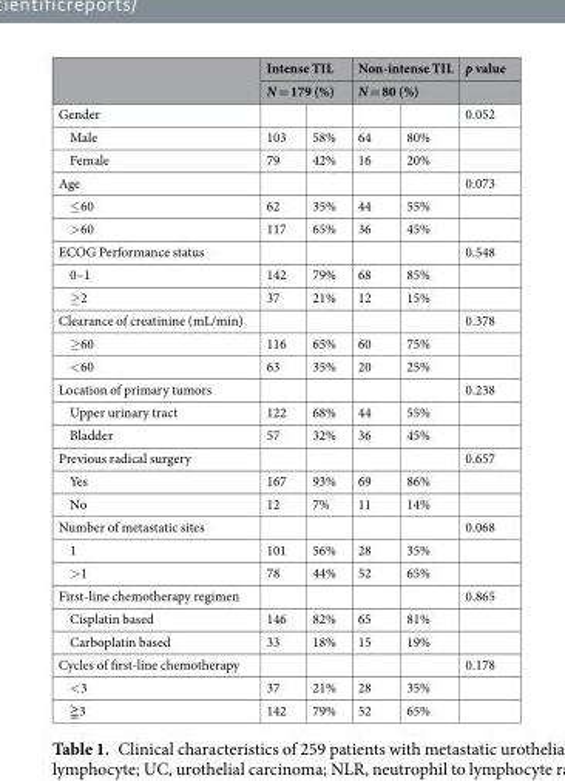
<table><thead><tr><td rowspan="3">Gender</td><td rowspan="2" colspan="2">Intense TIL N = 179 (%)</td><td rowspan="2" colspan="2">Non-intense TIL N = 80 (%)</td><td rowspan="3">p value 0.052</td></tr><tr></tr><tr><td></td><td></td><td></td><td></td></tr></thead><tbody><tr><td>Male</td><td>103</td><td>58%</td><td>64</td><td>80%</td><td></td></tr><tr><td>Female</td><td>79</td><td>42%</td><td>16</td><td>20%</td><td></td></tr><tr><td>Age</td><td></td><td></td><td></td><td></td><td>0.073</td></tr><tr><td>≤60</td><td>62</td><td>35%</td><td>44</td><td>55%</td><td></td></tr><tr><td>&gt;60</td><td>117</td><td>65%</td><td>36</td><td>45%</td><td></td></tr><tr><td>ECOG Performance status</td><td></td><td></td><td></td><td></td><td>0.548</td></tr><tr><td>0–1</td><td>142</td><td>79%</td><td>68</td><td>85%</td><td></td></tr><tr><td>≥2</td><td>37</td><td>21%</td><td>12</td><td>15%</td><td></td></tr><tr><td>Clearance of creatinine (mL/min)</td><td></td><td></td><td></td><td></td><td>0.378</td></tr><tr><td>≥60</td><td>116</td><td>65%</td><td>60</td><td>75%</td><td></td></tr><tr><td>&lt;60</td><td>63</td><td>35%</td><td>20</td><td>25%</td><td></td></tr><tr><td>Location of primary tumors</td><td></td><td></td><td></td><td></td><td>0.238</td></tr><tr><td>Upper urinary tract</td><td>122</td><td>68%</td><td>44</td><td>55%</td><td></td></tr><tr><td>Bladder</td><td>57</td><td>32%</td><td>36</td><td>45%</td><td></td></tr><tr><td>Previous radical surgery</td><td></td><td></td><td></td><td></td><td>0.657</td></tr><tr><td>Yes</td><td>167</td><td>93%</td><td>69</td><td>86%</td><td></td></tr><tr><td>No</td><td>12</td><td>7%</td><td>11</td><td>14%</td><td></td></tr><tr><td>Number of metastatic sites</td><td></td><td></td><td></td><td></td><td>0.068</td></tr><tr><td>1</td><td>101</td><td>56%</td><td>28</td><td>35%</td><td></td></tr><tr><td>&gt;1</td><td>78</td><td>44%</td><td>52</td><td>65%</td><td></td></tr><tr><td>First-line chemotherapy regimen</td><td></td><td></td><td></td><td></td><td>0.865</td></tr><tr><td>Cisplatin based</td><td>146</td><td>82%</td><td>65</td><td>81%</td><td></td></tr><tr><td>Carboplatin based</td><td>33</td><td>18%</td><td>15</td><td>19%</td><td></td></tr><tr><td>Cycles of first-line chemotherapy</td><td></td><td></td><td></td><td></td><td>0.178</td></tr><tr><td>&lt;3</td><td>37</td><td>21%</td><td>28</td><td>35%</td><td></td></tr><tr><td>≧3</td><td>142</td><td>79%</td><td>52</td><td>65%</td><td></td></tr></tbody></table>